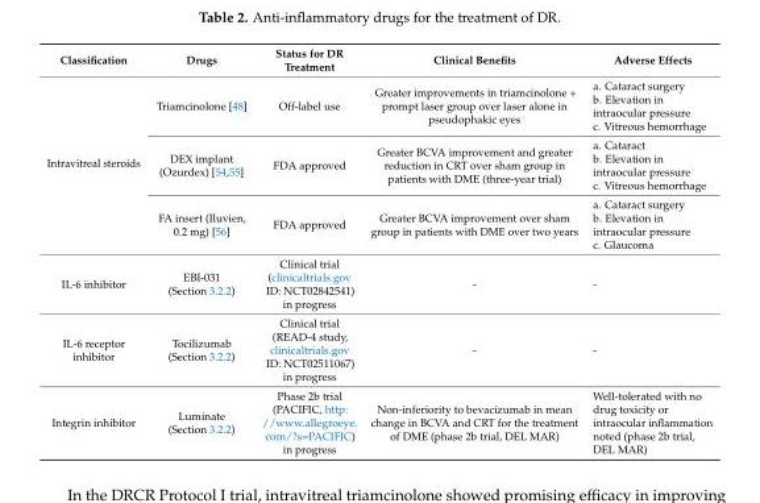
<table><thead><tr><td>Classification</td><td>Drugs</td><td>Status for DR Treatment</td><td>Clinical Benefits</td><td>Adverse Effects</td></tr></thead><tbody><tr><td rowspan="3">Intravitreal steroids</td><td>Triamcinolone [48]</td><td>Off-label use</td><td>Greater improvements in triamcinolone + prompt laser group over laser alone in pseudophakic eyes</td><td>a. Cataract surgery b. Elevation in intraocular pressure c. Vitreous hemorrhage</td></tr><tr><td>DEX implant (Ozurdex) [54,55]</td><td>FDA approved</td><td>Greater BCVA improvement and greater reduction in CRT over sham group in patients with DME (three-year trial)</td><td>a. Cataract b. Elevation in intraocular pressure c. Vitreous hemorrhage</td></tr><tr><td>FA insert (Iluvien, 0.2 mg) [56]</td><td>FDA approved</td><td>Greater BCVA improvement over sham group in patients with DME over two years</td><td>a. Cataract surgery b. Elevation in intraocular pressure c. Glaucoma</td></tr><tr><td>IL-6 inhibitor</td><td>EBI-031 (Section 3.2.2)</td><td>Clinical trial (clinicaltrials.gov ID: NCT02842541) in progress</td><td>-</td><td>-</td></tr><tr><td>IL-6 receptor inhibitor</td><td>Tocilizumab (Section 3.2.2)</td><td>Clinical trial (READ-4 study, clinicaltrials.gov ID: NCT02511067) in progress</td><td>-</td><td>-</td></tr><tr><td>Integrin inhibitor</td><td>Luminate (Section 3.2.2)</td><td>Phase 2b trial (PACIFIC, http: //www.allegroeye. com/?s=PACIFIC) in progress</td><td>Non-inferiority to bevacizumab in mean change in BCVA and CRT for the treatment of DME (phase 2b trial, DEL MAR)</td><td>Well-tolerated with no drug toxicity or intraocular inflammation noted (phase 2b trial, DEL MAR)</td></tr></tbody></table>